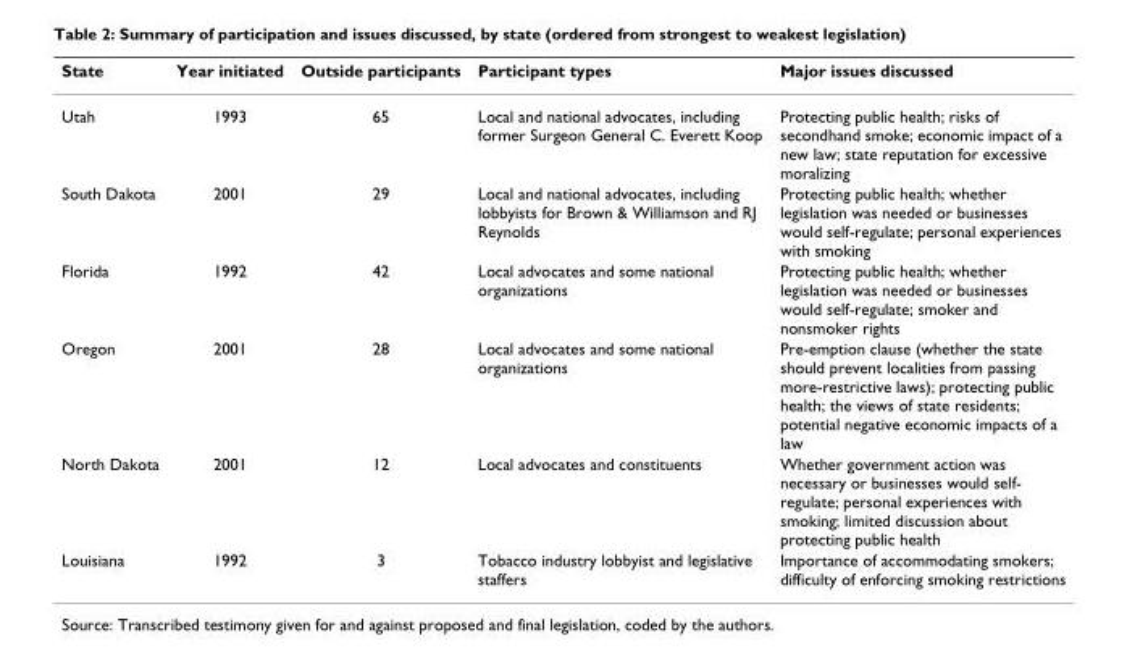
<table><thead><tr><td>State</td><td>Year initiated</td><td>Outside participants</td><td>Participant types</td><td>Major issues discussed</td></tr></thead><tbody><tr><td>Utah</td><td>1993</td><td>65</td><td>Local and national advocates, including former Surgeon General C. Everett Koop</td><td>Protecting public health; risks of secondhand smoke; economic impact of a new law; state reputation for excessive moralizing</td></tr><tr><td>South Dakota</td><td>2001</td><td>29</td><td>Local and national advocates, including lobbyists for Brown &amp; Williamson and RJ Reynolds</td><td>Protecting public health; whether legislation was needed or businesses would self-regulate; personal experiences with smoking</td></tr><tr><td>Florida</td><td>1992</td><td>42</td><td>Local advocates and some national organizations</td><td>Protecting public health; whether legislation was needed or businesses would self-regulate; smoker and nonsmoker rights</td></tr><tr><td>Oregon</td><td>2001</td><td>28</td><td>Local advocates and some national organizations</td><td>Pre-emption clause (whether the state should prevent localities from passing more-restrictive laws); protecting public health; the views of state residents; potential negative economic impacts of a law</td></tr><tr><td>North Dakota</td><td>2001</td><td>12</td><td>Local advocates and constituents</td><td>Whether government action was necessary or businesses would self- regulate; personal experiences with smoking; limited discussion about protecting public health</td></tr><tr><td>Louisiana</td><td>1992</td><td>3</td><td>Tobacco industry lobbyist and legislative staffers</td><td>Importance of accommodating smokers; difficulty of enforcing smoking restrictions</td></tr></tbody></table>